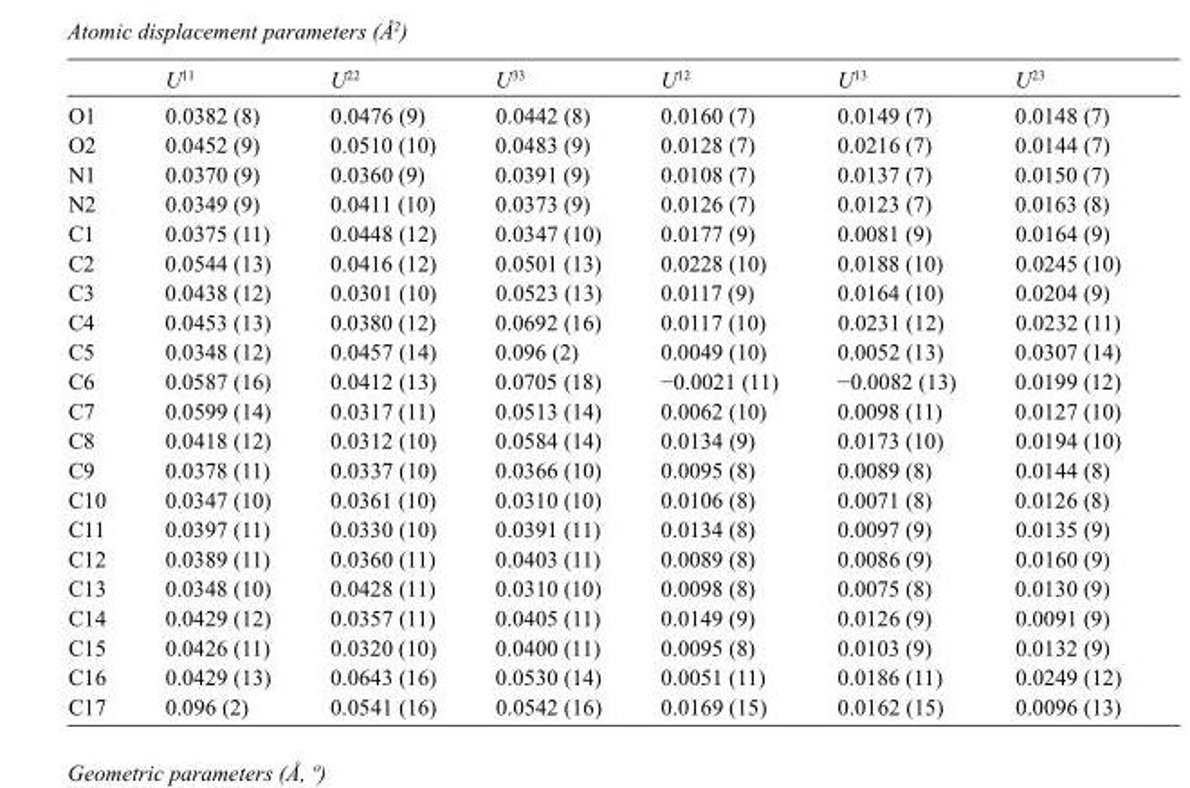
<table><thead><tr><td></td><td>U<sup>11</sup></td><td>U<sup>22</sup></td><td>U<sup>33</sup></td><td>U<sup>12</sup></td><td>U<sup>13</sup></td><td>U<sup>23</sup></td></tr></thead><tbody><tr><td>O1</td><td>0.0382 (8)</td><td>0.0476 (9)</td><td>0.0442 (8)</td><td>0.0160 (7)</td><td>0.0149 (7)</td><td>0.0148 (7)</td></tr><tr><td>O2</td><td>0.0452 (9)</td><td>0.0510 (10)</td><td>0.0483 (9)</td><td>0.0128 (7)</td><td>0.0216 (7)</td><td>0.0144 (7)</td></tr><tr><td>N1</td><td>0.0370 (9)</td><td>0.0360 (9)</td><td>0.0391 (9)</td><td>0.0108 (7)</td><td>0.0137 (7)</td><td>0.0150 (7)</td></tr><tr><td>N2</td><td>0.0349 (9)</td><td>0.0411 (10)</td><td>0.0373 (9)</td><td>0.0126 (7)</td><td>0.0123 (7)</td><td>0.0163 (8)</td></tr><tr><td>C1</td><td>0.0375 (11)</td><td>0.0448 (12)</td><td>0.0347 (10)</td><td>0.0177 (9)</td><td>0.0081 (9)</td><td>0.0164 (9)</td></tr><tr><td>C2</td><td>0.0544 (13)</td><td>0.0416 (12)</td><td>0.0501 (13)</td><td>0.0228 (10)</td><td>0.0188 (10)</td><td>0.0245 (10)</td></tr><tr><td>C3</td><td>0.0438 (12)</td><td>0.0301 (10)</td><td>0.0523 (13)</td><td>0.0117 (9)</td><td>0.0164 (10)</td><td>0.0204 (9)</td></tr><tr><td>C4</td><td>0.0453 (13)</td><td>0.0380 (12)</td><td>0.0692 (16)</td><td>0.0117 (10)</td><td>0.0231 (12)</td><td>0.0232 (11)</td></tr><tr><td>C5</td><td>0.0348 (12)</td><td>0.0457 (14)</td><td>0.096 (2)</td><td>0.0049 (10)</td><td>0.0052 (13)</td><td>0.0307 (14)</td></tr><tr><td>C6</td><td>0.0587 (16)</td><td>0.0412 (13)</td><td>0.0705 (18)</td><td>−0.0021 (11)</td><td>−0.0082 (13)</td><td>0.0199 (12)</td></tr><tr><td>C7</td><td>0.0599 (14)</td><td>0.0317 (11)</td><td>0.0513 (14)</td><td>0.0062 (10)</td><td>0.0098 (11)</td><td>0.0127 (10)</td></tr><tr><td>C8</td><td>0.0418 (12)</td><td>0.0312 (10)</td><td>0.0584 (14)</td><td>0.0134 (9)</td><td>0.0173 (10)</td><td>0.0194 (10)</td></tr><tr><td>C9</td><td>0.0378 (11)</td><td>0.0337 (10)</td><td>0.0366 (10)</td><td>0.0095 (8)</td><td>0.0089 (8)</td><td>0.0144 (8)</td></tr><tr><td>C10</td><td>0.0347 (10)</td><td>0.0361 (10)</td><td>0.0310 (10)</td><td>0.0106 (8)</td><td>0.0071 (8)</td><td>0.0126 (8)</td></tr><tr><td>C11</td><td>0.0397 (11)</td><td>0.0330 (10)</td><td>0.0391 (11)</td><td>0.0134 (8)</td><td>0.0097 (9)</td><td>0.0135 (9)</td></tr><tr><td>C12</td><td>0.0389 (11)</td><td>0.0360 (11)</td><td>0.0403 (11)</td><td>0.0089 (8)</td><td>0.0086 (9)</td><td>0.0160 (9)</td></tr><tr><td>C13</td><td>0.0348 (10)</td><td>0.0428 (11)</td><td>0.0310 (10)</td><td>0.0098 (8)</td><td>0.0075 (8)</td><td>0.0130 (9)</td></tr><tr><td>C14</td><td>0.0429 (12)</td><td>0.0357 (11)</td><td>0.0405 (11)</td><td>0.0149 (9)</td><td>0.0126 (9)</td><td>0.0091 (9)</td></tr><tr><td>C15</td><td>0.0426 (11)</td><td>0.0320 (10)</td><td>0.0400 (11)</td><td>0.0095 (8)</td><td>0.0103 (9)</td><td>0.0132 (9)</td></tr><tr><td>C16</td><td>0.0429 (13)</td><td>0.0643 (16)</td><td>0.0530 (14)</td><td>0.0051 (11)</td><td>0.0186 (11)</td><td>0.0249 (12)</td></tr><tr><td>C17</td><td>0.096 (2)</td><td>0.0541 (16)</td><td>0.0542 (16)</td><td>0.0169 (15)</td><td>0.0162 (15)</td><td>0.0096 (13)</td></tr></tbody></table>